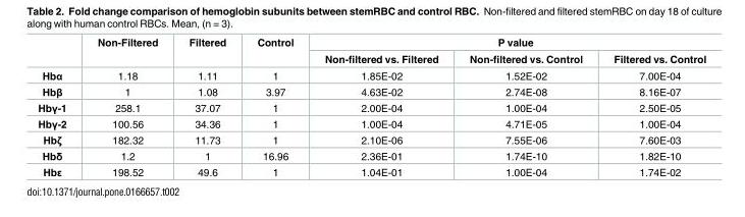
<table><thead><tr><td rowspan="2"></td><td rowspan="2">Non-Filtered</td><td rowspan="2">Filtered</td><td rowspan="2">Control</td><td colspan="3">P value</td></tr><tr><td>Non-filtered vs. Filtered</td><td>Non-filtered vs. Control</td><td>Filtered vs. Control</td></tr></thead><tbody><tr><td>Hbα</td><td>1.18</td><td>1.11</td><td>1</td><td>1.85E-02</td><td>1.52E-02</td><td>7.00E-04</td></tr><tr><td>Hbβ</td><td>1</td><td>1.08</td><td>3.97</td><td>4.63E-02</td><td>2.74E-08</td><td>8.16E-07</td></tr><tr><td>Hbγ-1</td><td>258.1</td><td>37.07</td><td>1</td><td>2.00E-04</td><td>1.00E-04</td><td>2.50E-05</td></tr><tr><td>Hbγ-2</td><td>100.56</td><td>34.36</td><td>1</td><td>1.00E-04</td><td>4.71E-05</td><td>1.00E-04</td></tr><tr><td>Hbζ</td><td>182.32</td><td>11.73</td><td>1</td><td>2.10E-06</td><td>7.55E-06</td><td>7.60E-03</td></tr><tr><td>Hbδ</td><td>1.2</td><td>1</td><td>16.96</td><td>2.36E-01</td><td>1.74E-10</td><td>1.82E-10</td></tr><tr><td>Hbε</td><td>198.52</td><td>49.6</td><td>1</td><td>1.04E-01</td><td>1.00E-04</td><td>1.74E-02</td></tr></tbody></table>